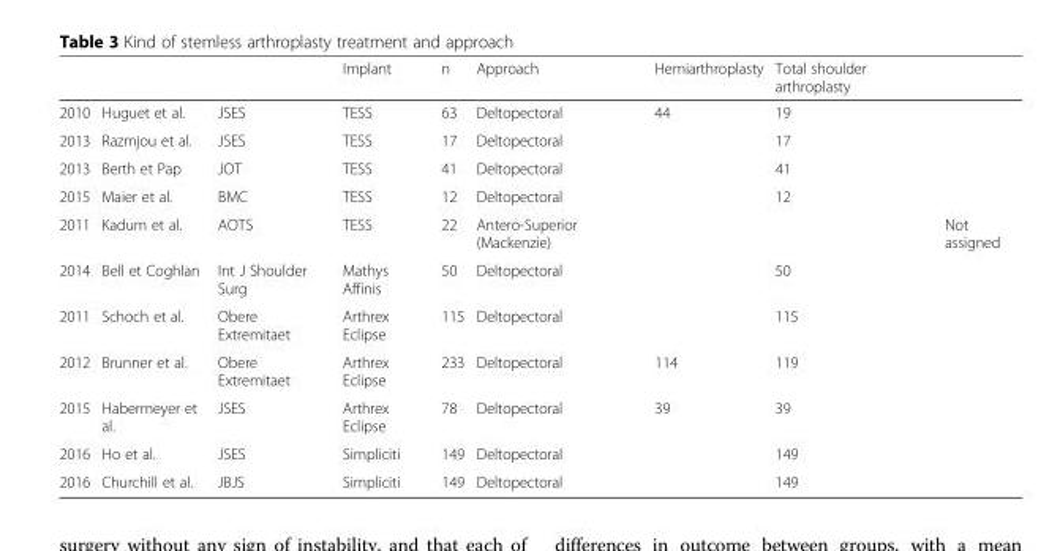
<table><thead><tr><td></td><td></td><td></td><td>Implant</td><td>n</td><td>Approach</td><td>Hemiarthroplasty</td><td>Total shoulder arthroplasty</td><td></td></tr></thead><tbody><tr><td>2010</td><td>Huguet et al.</td><td>JSES</td><td>TESS</td><td>63</td><td>Deltopectoral</td><td>44</td><td>19</td><td></td></tr><tr><td>2013</td><td>Razmjou et al.</td><td>JSES</td><td>TESS</td><td>17</td><td>Deltopectoral</td><td></td><td>17</td><td></td></tr><tr><td>2013</td><td>Berth et Pap</td><td>JOT</td><td>TESS</td><td>41</td><td>Deltopectoral</td><td></td><td>41</td><td></td></tr><tr><td>2015</td><td>Maier et al.</td><td>BMC</td><td>TESS</td><td>12</td><td>Deltopectoral</td><td></td><td>12</td><td></td></tr><tr><td>2011</td><td>Kadum et al.</td><td>AOTS</td><td>TESS</td><td>22</td><td>Antero-Superior (Mackenzie)</td><td></td><td></td><td>Not assigned</td></tr><tr><td>2014</td><td>Bell et Coghlan</td><td>Int J Shoulder Surg</td><td>Mathys Affinis</td><td>50</td><td>Deltopectoral</td><td></td><td>50</td><td></td></tr><tr><td>2011</td><td>Schoch et al.</td><td>Obere Extremitaet</td><td>Arthrex Eclipse</td><td>115</td><td>Deltopectoral</td><td></td><td>115</td><td></td></tr><tr><td>2012</td><td>Brunner et al.</td><td>Obere Extremitaet</td><td>Arthrex Eclipse</td><td>233</td><td>Deltopectoral</td><td>114</td><td>119</td><td></td></tr><tr><td>2015</td><td>Habermeyer et al.</td><td>JSES</td><td>Arthrex Eclipse</td><td>78</td><td>Deltopectoral</td><td>39</td><td>39</td><td></td></tr><tr><td>2016</td><td>Ho et al.</td><td>JSES</td><td>Simpliciti</td><td>149</td><td>Deltopectoral</td><td></td><td>149</td><td></td></tr><tr><td>2016</td><td>Churchill et al.</td><td>JBJS</td><td>Simpliciti</td><td>149</td><td>Deltopectoral</td><td></td><td>149</td><td></td></tr></tbody></table>